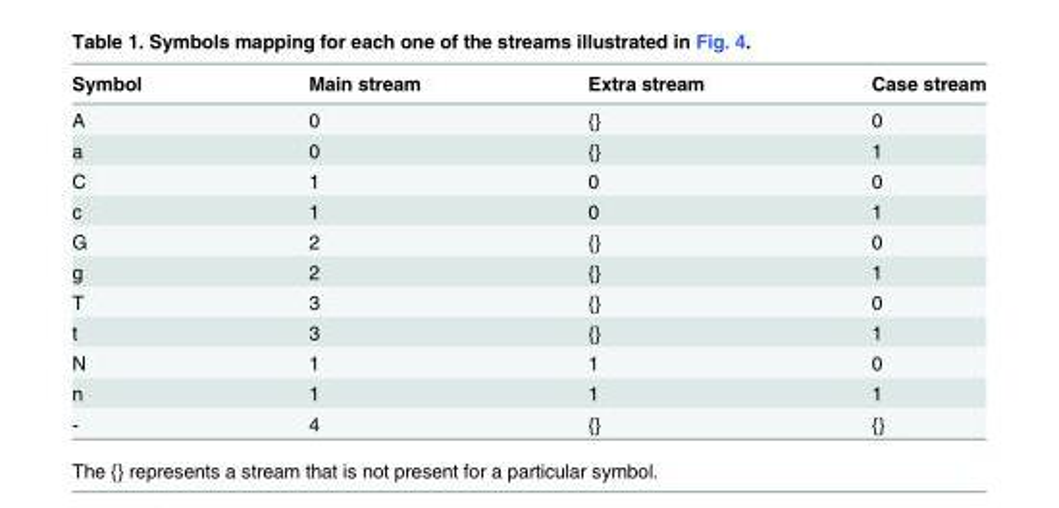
<table><thead><tr><td>Symbol</td><td>Main stream</td><td>Extra stream</td><td>Case stream</td></tr></thead><tbody><tr><td>A</td><td>0</td><td>{}</td><td>0</td></tr><tr><td>a</td><td>0</td><td>{}</td><td>1</td></tr><tr><td>C</td><td>1</td><td>0</td><td>0</td></tr><tr><td>c</td><td>1</td><td>0</td><td>1</td></tr><tr><td>G</td><td>2</td><td>{}</td><td>0</td></tr><tr><td>g</td><td>2</td><td>{}</td><td>1</td></tr><tr><td>T</td><td>3</td><td>{}</td><td>0</td></tr><tr><td>t</td><td>3</td><td>{}</td><td>1</td></tr><tr><td>N</td><td>1</td><td>1</td><td>0</td></tr><tr><td>n</td><td>1</td><td>1</td><td>1</td></tr><tr><td>-</td><td>4</td><td>{}</td><td>{}</td></tr></tbody></table>